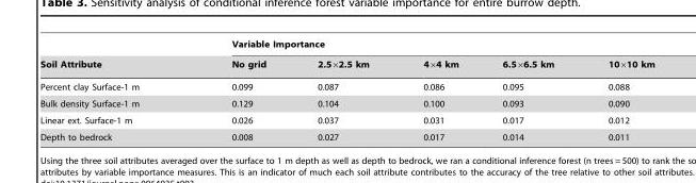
<table><thead><tr><td rowspan="2">Soil Attribute</td><td colspan="5">Variable Importance</td></tr><tr><td>No grid</td><td>2.5×2.5 km</td><td>4×4 km</td><td>6.5×6.5 km</td><td>10×10 km</td></tr></thead><tbody><tr><td>Percent clay Surface-1 m</td><td>0.099</td><td>0.087</td><td>0.086</td><td>0.095</td><td>0.088</td></tr><tr><td>Bulk density Surface-1 m</td><td>0.129</td><td>0.104</td><td>0.100</td><td>0.093</td><td>0.090</td></tr><tr><td>Linear ext. Surface-1 m</td><td>0.026</td><td>0.037</td><td>0.031</td><td>0.017</td><td>0.012</td></tr><tr><td>Depth to bedrock</td><td>0.008</td><td>0.027</td><td>0.017</td><td>0.014</td><td>0.011</td></tr></tbody></table>